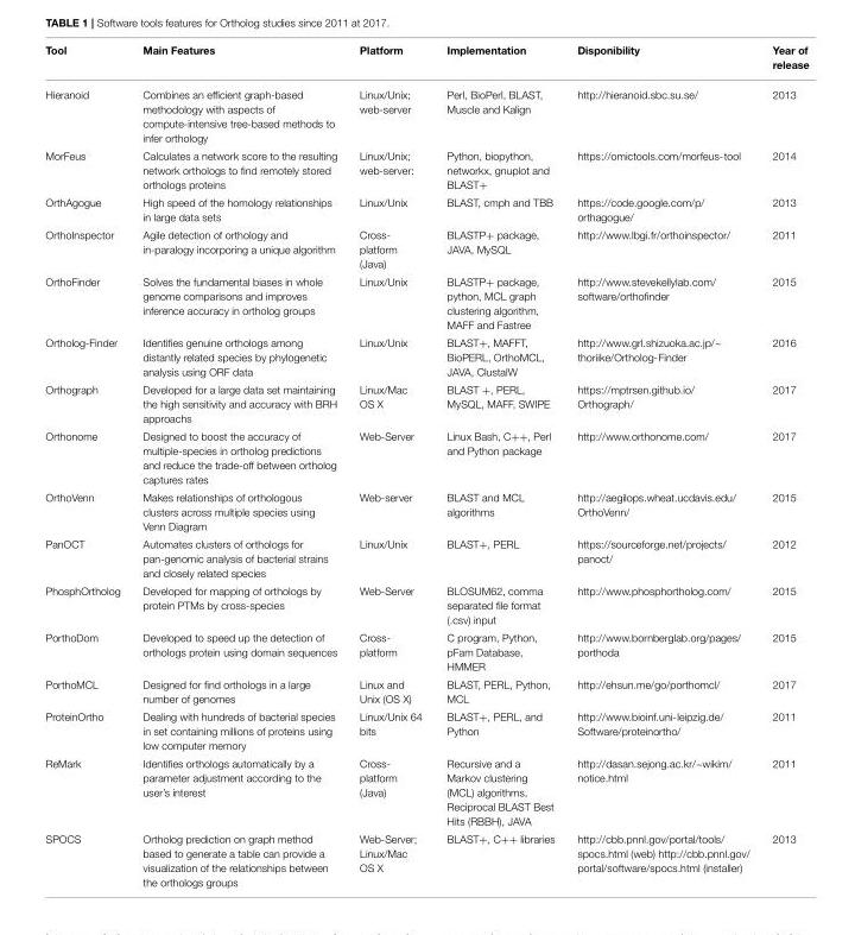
<table><thead><tr><td>Tool</td><td>Main Features</td><td>Platform</td><td>Implementation</td><td>Disponibility</td><td>Year of release</td></tr></thead><tbody><tr><td>Hieranoid</td><td>Combines an efficient graph-based methodology with aspects of compute-intensive tree-based methods to infer orthology</td><td>Linux/Unix; web-server</td><td>Perl, BioPerl, BLAST, Muscle and Kalign</td><td>http://hieranoid.sbc.su.se/</td><td>2013</td></tr><tr><td>MorFeus</td><td>Calculates a network score to the resulting network orthologs to find remotely stored orthologs proteins</td><td>Linux/Unix; web-server:</td><td>Python, biopython, networkx, gnuplot and BLAST+</td><td>https://omictools.com/morfeus-tool</td><td>2014</td></tr><tr><td>OrthAgogue</td><td>High speed of the homology relationships in large data sets</td><td>Linux/Unix</td><td>BLAST, cmph and TBB</td><td>https://code.google.com/p/ orthagogue/</td><td>2013</td></tr><tr><td>OrthoInspector</td><td>Agile detection of orthology and in-paralogy incorporing a unique algorithm</td><td>Cross- platform (Java)</td><td>BLASTP+ package, JAVA, MySQL</td><td>http://www.lbgi.fr/orthoinspector/</td><td>2011</td></tr><tr><td>OrthoFinder</td><td>Solves the fundamental biases in whole genome comparisons and improves inference accuracy in ortholog groups</td><td>Linux/Unix</td><td>BLASTP+ package, python, MCL graph clustering algorithm, MAFF and Fastree</td><td>http://www.stevekellylab.com/ software/orthofinder</td><td>2015</td></tr><tr><td>Ortholog-Finder</td><td>Identifies genuine orthologs among distantly related species by phylogenetic analysis using ORF data</td><td>Linux/Unix</td><td>BLAST+, MAFFT, BioPERL, OrthoMCL, JAVA, ClustalW</td><td>http://www.grl.shizuoka.ac.jp/~ thoriike/Ortholog-Finder</td><td>2016</td></tr><tr><td>Orthograph</td><td>Developed for a large data set maintaining the high sensitivity and accuracy with BRH approachs</td><td>Linux/Mac OS X</td><td>BLAST +, PERL, MySQL, MAFF, SWIPE</td><td>https://mptrsen.github.io/ Orthograph/</td><td>2017</td></tr><tr><td>Orthonome</td><td>Designed to boost the accuracy of multiple-species in ortholog predictions and reduce the trade-off between ortholog captures rates</td><td>Web-Server</td><td>Linux Bash, C++, Perl and Python package</td><td>http://www.orthonome.com/</td><td>2017</td></tr><tr><td>OrthoVenn</td><td>Makes relationships of orthologous clusters across multiple species using Venn Diagram</td><td>Web-server</td><td>BLAST and MCL algorithms</td><td>http://aegilops.wheat.ucdavis.edu/ OrthoVenn/</td><td>2015</td></tr><tr><td>PanOCT</td><td>Automates clusters of orthologs for pan-genomic analysis of bacterial strains and closely related species</td><td>Linux/Unix</td><td>BLAST+, PERL</td><td>https://sourceforge.net/projects/ panoct/</td><td>2012</td></tr><tr><td>PhosphOrtholog</td><td>Developed for mapping of orthologs by protein PTMs by cross-species</td><td>Web-Server</td><td>BLOSUM62, comma separated file format (.csv) input</td><td>http://www.phosphortholog.com/</td><td>2015</td></tr><tr><td>PorthoDom</td><td>Developed to speed up the detection of orthologs protein using domain sequences</td><td>Cross- platform</td><td>C program, Python, pFam Database, HMMER</td><td>http://www.bornberglab.org/pages/ porthoda</td><td>2015</td></tr><tr><td>PorthoMCL</td><td>Designed for find orthologs in a large number of genomes</td><td>Linux and Unix (OS X)</td><td>BLAST, PERL, Python, MCL</td><td>http://ehsun.me/go/porthomcl/</td><td>2017</td></tr><tr><td>ProteinOrtho</td><td>Dealing with hundreds of bacterial species in set containing millions of proteins using low computer memory</td><td>Linux/Unix 64 bits</td><td>BLAST+, PERL, and Python</td><td>http://www.bioinf.uni-leipzig.de/ Software/proteinortho/</td><td>2011</td></tr><tr><td>ReMark</td><td>Identifies orthologs automatically by a parameter adjustment according to the user’s interest</td><td>Cross- platform (Java)</td><td>Recursive and a Markov clustering (MCL) algorithms, Reciprocal BLAST Best Hits (RBBH), JAVA</td><td>http://dasan.sejong.ac.kr/~wikim/ notice.html</td><td>2011</td></tr><tr><td>SPOCS</td><td>Ortholog prediction on graph method based to generate a table can provide a visualization of the relationships between the orthologs groups</td><td>Web-Server; Linux/Mac OS X</td><td>BLAST+, C++ libraries</td><td>http://cbb.pnnl.gov/portal/tools/ spocs.html (web) http://cbb.pnnl.gov/ portal/software/spocs.html (installer)</td><td>2013</td></tr></tbody></table>